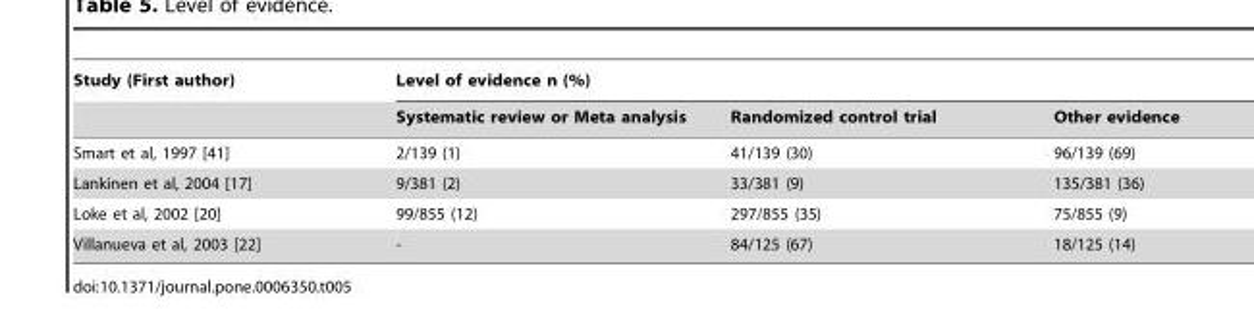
<table><thead><tr><td rowspan="2">Study (First author)</td><td colspan="3">Level of evidence n (%)</td></tr><tr><td>Systematic review or Meta analysis</td><td>Randomized control trial</td><td>Other evidence</td></tr></thead><tbody><tr><td>Smart et al, 1997 [41]</td><td>2/139 (1)</td><td>41/139 (30)</td><td>96/139 (69)</td></tr><tr><td>Lankinen et al, 2004 [17]</td><td>9/381 (2)</td><td>33/381 (9)</td><td>135/381 (36)</td></tr><tr><td>Loke et al, 2002 [20]</td><td>99/855 (12)</td><td>297/855 (35)</td><td>75/855 (9)</td></tr><tr><td>Villanueva et al, 2003 [22]</td><td>-</td><td>84/125 (67)</td><td>18/125 (14)</td></tr></tbody></table>